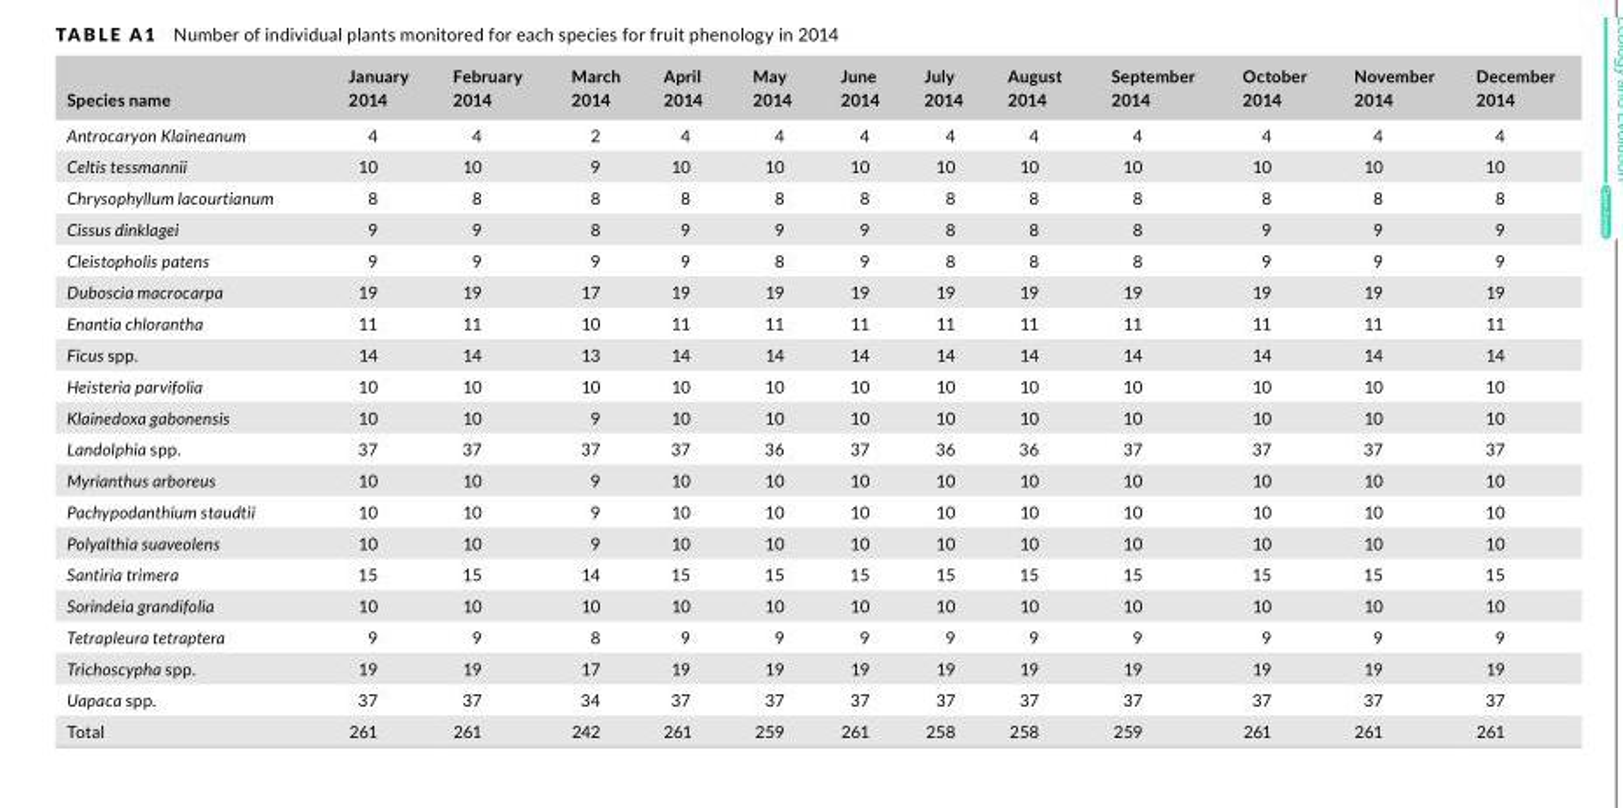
<table><thead><tr><td>Species name</td><td>January 2014</td><td>February 2014</td><td>March 2014</td><td>April 2014</td><td>May 2014</td><td>June 2014</td><td>July 2014</td><td>August 2014</td><td>September 2014</td><td>October 2014</td><td>November 2014</td><td>December 2014</td></tr></thead><tbody><tr><td>Antrocaryon Klaineanum</td><td>4</td><td>4</td><td>2</td><td>4</td><td>4</td><td>4</td><td>4</td><td>4</td><td>4</td><td>4</td><td>4</td><td>4</td></tr><tr><td>Celtis tessmannii</td><td>10</td><td>10</td><td>9</td><td>10</td><td>10</td><td>10</td><td>10</td><td>10</td><td>10</td><td>10</td><td>10</td><td>10</td></tr><tr><td>Chrysophyllum lacourtianum</td><td>8</td><td>8</td><td>8</td><td>8</td><td>8</td><td>8</td><td>8</td><td>8</td><td>8</td><td>8</td><td>8</td><td>8</td></tr><tr><td>Cissus dinklagei</td><td>9</td><td>9</td><td>8</td><td>9</td><td>9</td><td>9</td><td>8</td><td>8</td><td>8</td><td>9</td><td>9</td><td>9</td></tr><tr><td>Cleistopholis patens</td><td>9</td><td>9</td><td>9</td><td>9</td><td>8</td><td>9</td><td>8</td><td>8</td><td>8</td><td>9</td><td>9</td><td>9</td></tr><tr><td>Duboscia macrocarpa</td><td>19</td><td>19</td><td>17</td><td>19</td><td>19</td><td>19</td><td>19</td><td>19</td><td>19</td><td>19</td><td>19</td><td>19</td></tr><tr><td>Enantia chlorantha</td><td>11</td><td>11</td><td>10</td><td>11</td><td>11</td><td>11</td><td>11</td><td>11</td><td>11</td><td>11</td><td>11</td><td>11</td></tr><tr><td>Ficus spp.</td><td>14</td><td>14</td><td>13</td><td>14</td><td>14</td><td>14</td><td>14</td><td>14</td><td>14</td><td>14</td><td>14</td><td>14</td></tr><tr><td>Heisteria parvifolia</td><td>10</td><td>10</td><td>10</td><td>10</td><td>10</td><td>10</td><td>10</td><td>10</td><td>10</td><td>10</td><td>10</td><td>10</td></tr><tr><td>Klainedoxa gabonensis</td><td>10</td><td>10</td><td>9</td><td>10</td><td>10</td><td>10</td><td>10</td><td>10</td><td>10</td><td>10</td><td>10</td><td>10</td></tr><tr><td>Landolphia spp.</td><td>37</td><td>37</td><td>37</td><td>37</td><td>36</td><td>37</td><td>36</td><td>36</td><td>37</td><td>37</td><td>37</td><td>37</td></tr><tr><td>Myrianthus arboreus</td><td>10</td><td>10</td><td>9</td><td>10</td><td>10</td><td>10</td><td>10</td><td>10</td><td>10</td><td>10</td><td>10</td><td>10</td></tr><tr><td>Pachypodanthium staudtii</td><td>10</td><td>10</td><td>9</td><td>10</td><td>10</td><td>10</td><td>10</td><td>10</td><td>10</td><td>10</td><td>10</td><td>10</td></tr><tr><td>Polyalthia suaveolens</td><td>10</td><td>10</td><td>9</td><td>10</td><td>10</td><td>10</td><td>10</td><td>10</td><td>10</td><td>10</td><td>10</td><td>10</td></tr><tr><td>Santiria trimera</td><td>15</td><td>15</td><td>14</td><td>15</td><td>15</td><td>15</td><td>15</td><td>15</td><td>15</td><td>15</td><td>15</td><td>15</td></tr><tr><td>Sorindeia grandifolia</td><td>10</td><td>10</td><td>10</td><td>10</td><td>10</td><td>10</td><td>10</td><td>10</td><td>10</td><td>10</td><td>10</td><td>10</td></tr><tr><td>Tetrapleura tetraptera</td><td>9</td><td>9</td><td>8</td><td>9</td><td>9</td><td>9</td><td>9</td><td>9</td><td>9</td><td>9</td><td>9</td><td>9</td></tr><tr><td>Trichoscypha spp.</td><td>19</td><td>19</td><td>17</td><td>19</td><td>19</td><td>19</td><td>19</td><td>19</td><td>19</td><td>19</td><td>19</td><td>19</td></tr><tr><td>Uapaca spp.</td><td>37</td><td>37</td><td>34</td><td>37</td><td>37</td><td>37</td><td>37</td><td>37</td><td>37</td><td>37</td><td>37</td><td>37</td></tr><tr><td>Total</td><td>261</td><td>261</td><td>242</td><td>261</td><td>259</td><td>261</td><td>258</td><td>258</td><td>259</td><td>261</td><td>261</td><td>261</td></tr></tbody></table>